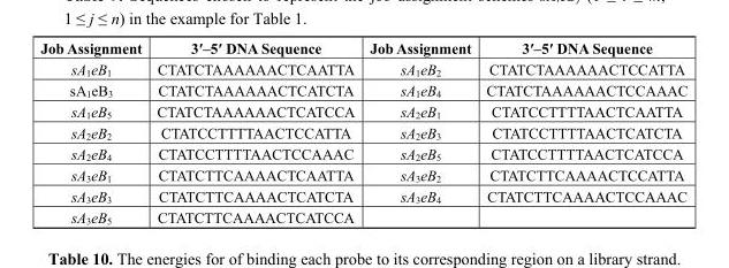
<table><thead><tr><td>Job Assignment</td><td>3′–5′ DNA Sequence</td><td>Job Assignment</td><td>3′–5′ DNA Sequence</td></tr></thead><tbody><tr><td>sA<sub>1</sub>eB<sub>1</sub></td><td>CTATCTAAAAAACTCAATTA</td><td>sA<sub>1</sub>eB<sub>2</sub></td><td>CTATCTAAAAAACTCCATTA</td></tr><tr><td>sA<sub>1</sub>eB<sub>3</sub></td><td>CTATCTAAAAAACTCATCTA</td><td>sA<sub>1</sub>eB<sub>4</sub></td><td>CTATCTAAAAAACTCCAAAC</td></tr><tr><td>sA<sub>1</sub>eB<sub>5</sub></td><td>CTATCTAAAAAACTCATCCA</td><td>sA<sub>2</sub>eB<sub>1</sub></td><td>CTATCCTTTTAACTCAATTA</td></tr><tr><td>sA<sub>2</sub>eB<sub>2</sub></td><td>CTATCCTTTTAACTCCATTA</td><td>sA<sub>2</sub>eB<sub>3</sub></td><td>CTATCCTTTTAACTCATCTA</td></tr><tr><td>sA<sub>2</sub>eB<sub>4</sub></td><td>CTATCCTTTTAACTCCAAAC</td><td>sA<sub>2</sub>eB<sub>5</sub></td><td>CTATCCTTTTAACTCATCCA</td></tr><tr><td>sA<sub>3</sub>eB<sub>1</sub></td><td>CTATCTTCAAAACTCAATTA</td><td>sA<sub>3</sub>eB<sub>2</sub></td><td>CTATCTTCAAAACTCCATTA</td></tr><tr><td>sA<sub>3</sub>eB<sub>3</sub></td><td>CTATCTTCAAAACTCATCTA</td><td>sA<sub>3</sub>eB<sub>4</sub></td><td>CTATCTTCAAAACTCCAAAC</td></tr><tr><td>sA<sub>3</sub>eB<sub>5</sub></td><td>CTATCTTCAAAACTCATCCA</td><td></td><td></td></tr></tbody></table>